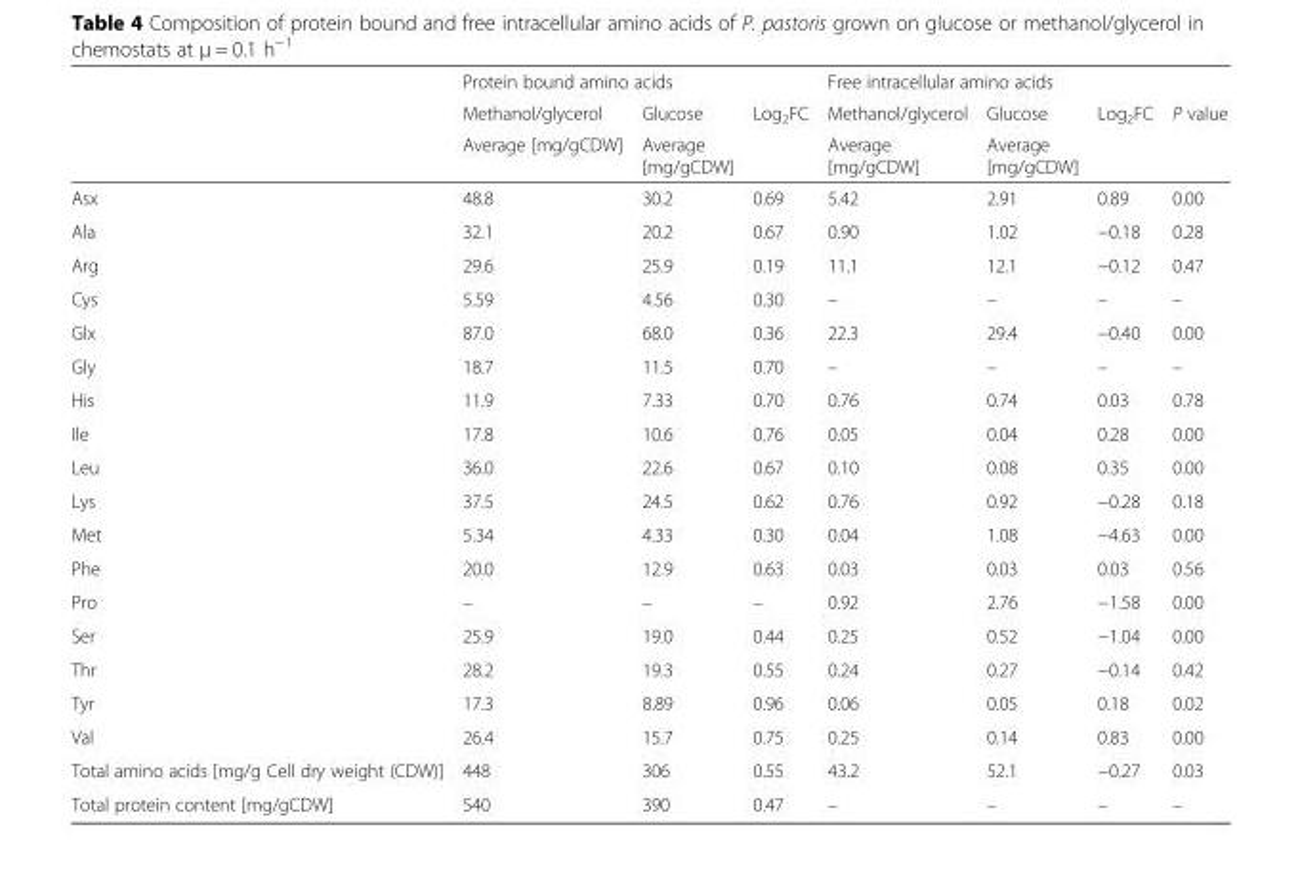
<table><thead><tr><td rowspan="3"></td><td colspan="3">Protein bound amino acids</td><td colspan="4">Free intracellular amino acids</td></tr><tr><td rowspan="2">Methanol/glycerol Average [mg/gCDW]</td><td rowspan="2">Glucose Average [mg/gCDW]</td><td rowspan="2">Log<sub>2</sub>FC</td><td rowspan="2">Methanol/glycerol Average [mg/gCDW]</td><td rowspan="2">Glucose Average [mg/gCDW]</td><td rowspan="2">Log<sub>2</sub>FC</td><td rowspan="2">P value</td></tr><tr></tr></thead><tbody><tr><td>Asx</td><td>48.8</td><td>30.2</td><td>0.69</td><td>5.42</td><td>2.91</td><td>0.89</td><td>0.00</td></tr><tr><td>Ala</td><td>32.1</td><td>20.2</td><td>0.67</td><td>0.90</td><td>1.02</td><td>−0.18</td><td>0.28</td></tr><tr><td>Arg</td><td>29.6</td><td>25.9</td><td>0.19</td><td>11.1</td><td>12.1</td><td>−0.12</td><td>0.47</td></tr><tr><td>Cys</td><td>5.59</td><td>4.56</td><td>0.30</td><td>–</td><td>–</td><td>–</td><td>–</td></tr><tr><td>Glx</td><td>87.0</td><td>68.0</td><td>0.36</td><td>22.3</td><td>29.4</td><td>−0.40</td><td>0.00</td></tr><tr><td>Gly</td><td>18.7</td><td>11.5</td><td>0.70</td><td>–</td><td>–</td><td>–</td><td>–</td></tr><tr><td>His</td><td>11.9</td><td>7.33</td><td>0.70</td><td>0.76</td><td>0.74</td><td>0.03</td><td>0.78</td></tr><tr><td>Ile</td><td>17.8</td><td>10.6</td><td>0.76</td><td>0.05</td><td>0.04</td><td>0.28</td><td>0.00</td></tr><tr><td>Leu</td><td>36.0</td><td>22.6</td><td>0.67</td><td>0.10</td><td>0.08</td><td>0.35</td><td>0.00</td></tr><tr><td>Lys</td><td>37.5</td><td>24.5</td><td>0.62</td><td>0.76</td><td>0.92</td><td>−0.28</td><td>0.18</td></tr><tr><td>Met</td><td>5.34</td><td>4.33</td><td>0.30</td><td>0.04</td><td>1.08</td><td>−4.63</td><td>0.00</td></tr><tr><td>Phe</td><td>20.0</td><td>12.9</td><td>0.63</td><td>0.03</td><td>0.03</td><td>0.03</td><td>0.56</td></tr><tr><td>Pro</td><td>–</td><td>–</td><td>–</td><td>0.92</td><td>2.76</td><td>−1.58</td><td>0.00</td></tr><tr><td>Ser</td><td>25.9</td><td>19.0</td><td>0.44</td><td>0.25</td><td>0.52</td><td>−1.04</td><td>0.00</td></tr><tr><td>Thr</td><td>28.2</td><td>19.3</td><td>0.55</td><td>0.24</td><td>0.27</td><td>−0.14</td><td>0.42</td></tr><tr><td>Tyr</td><td>17.3</td><td>8.89</td><td>0.96</td><td>0.06</td><td>0.05</td><td>0.18</td><td>0.02</td></tr><tr><td>Val</td><td>26.4</td><td>15.7</td><td>0.75</td><td>0.25</td><td>0.14</td><td>0.83</td><td>0.00</td></tr><tr><td>Total amino acids [mg/g Cell dry weight (CDW)]</td><td>448</td><td>306</td><td>0.55</td><td>43.2</td><td>52.1</td><td>−0.27</td><td>0.03</td></tr><tr><td>Total protein content [mg/gCDW]</td><td>540</td><td>390</td><td>0.47</td><td>–</td><td>–</td><td>–</td><td>–</td></tr></tbody></table>